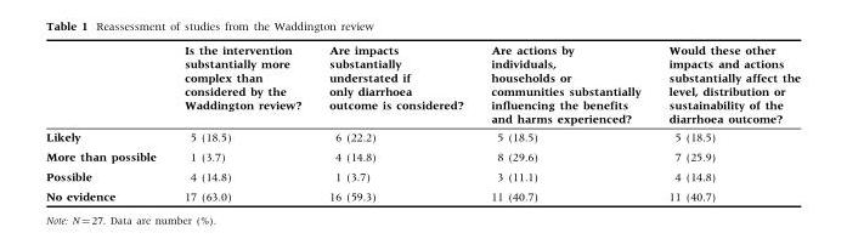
<table><thead><tr><td></td><td>Is the intervention substantially more complex than considered by the Waddington review?</td><td>Are impacts substantially understated if only diarrhoea outcome is considered?</td><td>Are actions by individuals, households or communities substantially influencing the benefits and harms experienced?</td><td>Would these other impacts and actions substantially affect the level, distribution or sustainability of the diarrhoea outcome?</td></tr></thead><tbody><tr><td>Likely</td><td>5 (18.5)</td><td>6 (22.2)</td><td>5 (18.5)</td><td>5 (18.5)</td></tr><tr><td>More than possible</td><td>1 (3.7)</td><td>4 (14.8)</td><td>8 (29.6)</td><td>7 (25.9)</td></tr><tr><td>Possible</td><td>4 (14.8)</td><td>1 (3.7)</td><td>3 (11.1)</td><td>4 (14.8)</td></tr><tr><td>No evidence</td><td>17 (63.0)</td><td>16 (59.3)</td><td>11 (40.7)</td><td>11 (40.7)</td></tr></tbody></table>